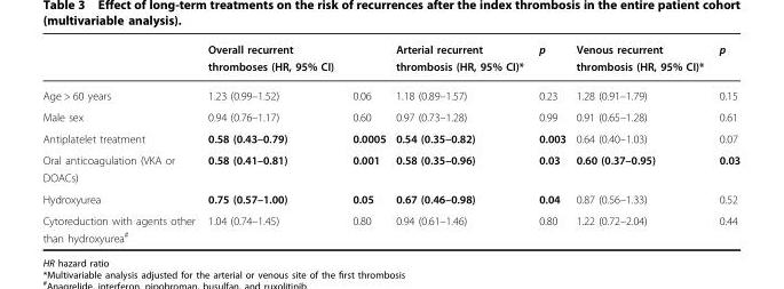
<table><thead><tr><td></td><td>Overall recurrent thromboses (HR, 95% CI)</td><td></td><td>Arterial recurrent thrombosis (HR, 95% CI)*</td><td>p</td><td>Venous recurrent thrombosis (HR, 95% CI)*</td><td>p</td></tr></thead><tbody><tr><td>Age &gt; 60 years</td><td>1.23 (0.99–1.52)</td><td>0.06</td><td>1.18 (0.89–1.57)</td><td>0.23</td><td>1.28 (0.91–1.79)</td><td>0.15</td></tr><tr><td>Male sex</td><td>0.94 (0.76–1.17)</td><td>0.60</td><td>0.97 (0.73–1.28)</td><td>0.99</td><td>0.91 (0.65–1.28)</td><td>0.61</td></tr><tr><td>Antiplatelet treatment</td><td>0.58 (0.43–0.79)</td><td>0.0005</td><td>0.54 (0.35–0.82)</td><td>0.003</td><td>0.64 (0.40–1.03)</td><td>0.07</td></tr><tr><td>Oral anticoagulation (VKA or DOACs)</td><td>0.58 (0.41–0.81)</td><td>0.001</td><td>0.58 (0.35–0.96)</td><td>0.03</td><td>0.60 (0.37–0.95)</td><td>0.03</td></tr><tr><td>Hydroxyurea</td><td>0.75 (0.57–1.00)</td><td>0.05</td><td>0.67 (0.46–0.98)</td><td>0.04</td><td>0.87 (0.56–1.33)</td><td>0.52</td></tr><tr><td>Cytoreduction with agents other than hydroxyurea<sup>#</sup></td><td>1.04 (0.74–1.45)</td><td>0.80</td><td>0.94 (0.61–1.46)</td><td>0.80</td><td>1.22 (0.72–2.04)</td><td>0.44</td></tr></tbody></table>